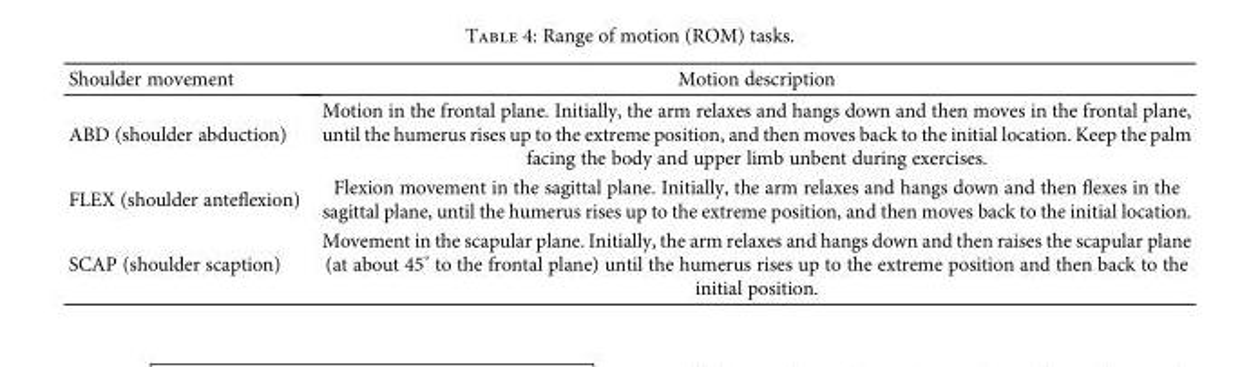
<table><thead><tr><td>Shoulder movement</td><td>Motion description</td></tr></thead><tbody><tr><td>ABD (shoulder abduction)</td><td>Motion in the frontal plane. Initially, the arm relaxes and hangs down and then moves in the frontal plane, until the humerus rises up to the extreme position, and then moves back to the initial location. Keep the palm facing the body and upper limb unbent during exercises.</td></tr><tr><td>FLEX (shoulder anteflexion)</td><td>Flexion movement in the sagittal plane. Initially, the arm relaxes and hangs down and then flexes in the sagittal plane, until the humerus rises up to the extreme position, and then moves back to the initial location.</td></tr><tr><td>SCAP (shoulder scaption)</td><td>Movement in the scapular plane. Initially, the arm relaxes and hangs down and then raises the scapular plane (at about 45° to the frontal plane) until the humerus rises up to the extreme position and then back to the initial position.</td></tr></tbody></table>